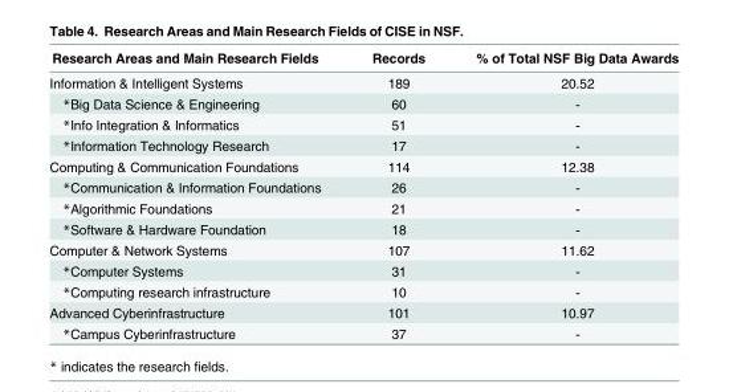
<table><thead><tr><td>Research Areas and Main Research Fields</td><td>Records</td><td>% of Total NSF Big Data Awards</td></tr></thead><tbody><tr><td>Information &amp; Intelligent Systems</td><td>189</td><td>20.52</td></tr><tr><td>*Big Data Science &amp; Engineering</td><td>60</td><td>-</td></tr><tr><td>*Info Integration &amp; Informatics</td><td>51</td><td>-</td></tr><tr><td>*Information Technology Research</td><td>17</td><td>-</td></tr><tr><td>Computing &amp; Communication Foundations</td><td>114</td><td>12.38</td></tr><tr><td>*Communication &amp; Information Foundations</td><td>26</td><td>-</td></tr><tr><td>*Algorithmic Foundations</td><td>21</td><td>-</td></tr><tr><td>*Software &amp; Hardware Foundation</td><td>18</td><td>-</td></tr><tr><td>Computer &amp; Network Systems</td><td>107</td><td>11.62</td></tr><tr><td>*Computer Systems</td><td>31</td><td>-</td></tr><tr><td>*Computing research infrastructure</td><td>10</td><td>-</td></tr><tr><td>Advanced Cyberinfrastructure</td><td>101</td><td>10.97</td></tr><tr><td>*Campus Cyberinfrastructure</td><td>37</td><td>-</td></tr></tbody></table>